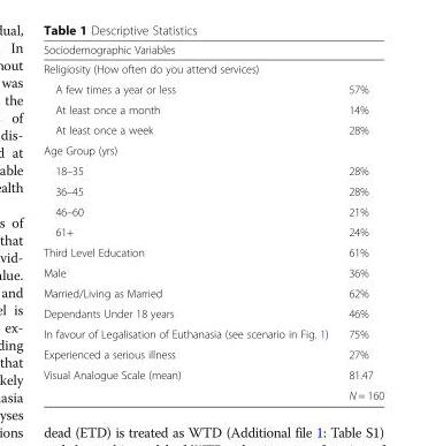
<table><thead><tr><td rowspan="2" colspan="2">Sociodemographic Variables Religiosity (How often do you attend services)</td></tr><tr></tr><tr><td>A few times a year or less</td><td>57%</td></tr></thead><tbody><tr><td>At least once a month</td><td>14%</td></tr><tr><td>At least once a week</td><td>28%</td></tr><tr><td colspan="2">Age Group (yrs)</td></tr><tr><td>18–35</td><td>28%</td></tr><tr><td>36–45</td><td>28%</td></tr><tr><td>46–60</td><td>21%</td></tr><tr><td>61+</td><td>24%</td></tr><tr><td>Third Level Education</td><td>61%</td></tr><tr><td>Male</td><td>36%</td></tr><tr><td>Married/Living as Married</td><td>62%</td></tr><tr><td>Dependants Under 18 years</td><td>46%</td></tr><tr><td>In favour of Legalisation of Euthanasia (see scenario in Fig. 1)</td><td>75%</td></tr><tr><td>Experienced a serious illness</td><td>27%</td></tr><tr><td rowspan="2">Visual Analogue Scale (mean)</td><td>81.47</td></tr><tr><td>N = 160</td></tr></tbody></table>